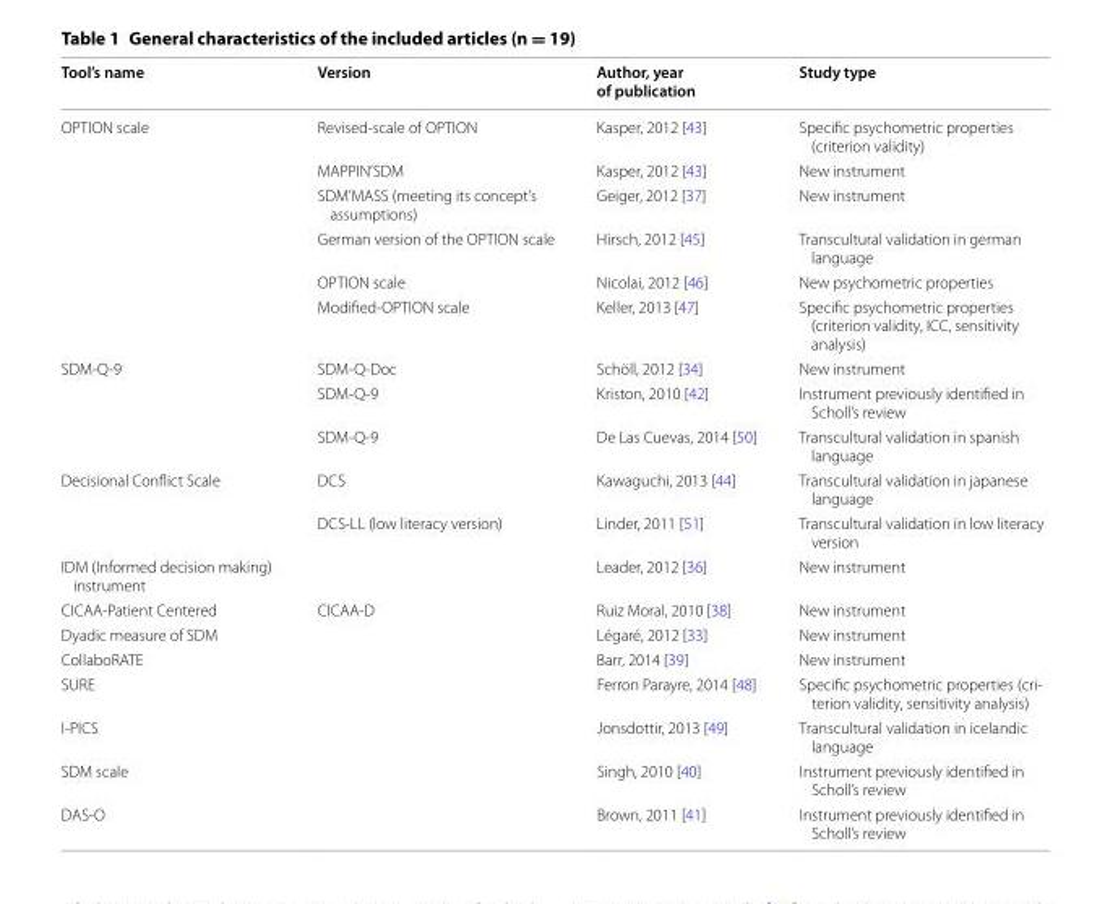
<table><thead><tr><td>Tool’s name</td><td>Version</td><td>Author, year of publication</td><td>Study type</td></tr></thead><tbody><tr><td rowspan="6">OPTION scale</td><td>Revised-scale of OPTION</td><td>Kasper, 2012 [43]</td><td>Specific psychometric properties (criterion validity)</td></tr><tr><td>MAPPIN’SDM</td><td>Kasper, 2012 [43]</td><td>New instrument</td></tr><tr><td>SDM’MASS (meeting its concept’s assumptions)</td><td>Geiger, 2012 [37]</td><td>New instrument</td></tr><tr><td>German version of the OPTION scale</td><td>Hirsch, 2012 [45]</td><td>Transcultural validation in german language</td></tr><tr><td>OPTION scale</td><td>Nicolai, 2012 [46]</td><td>New psychometric properties</td></tr><tr><td>Modified-OPTION scale</td><td>Keller, 2013 [47]</td><td>Specific psychometric properties (criterion validity, ICC, sensitivity analysis)</td></tr><tr><td rowspan="3">SDM-Q-9</td><td>SDM-Q-Doc</td><td>Schöll, 2012 [34]</td><td>New instrument</td></tr><tr><td>SDM-Q-9</td><td>Kriston, 2010 [42]</td><td>Instrument previously identified in Scholl’s review</td></tr><tr><td>SDM-Q-9</td><td>De Las Cuevas, 2014 [50]</td><td>Transcultural validation in spanish language</td></tr><tr><td rowspan="2">Decisional Conflict Scale</td><td>DCS</td><td>Kawaguchi, 2013 [44]</td><td>Transcultural validation in japanese language</td></tr><tr><td>DCS-LL (low literacy version)</td><td>Linder, 2011 [51]</td><td>Transcultural validation in low literacy version</td></tr><tr><td>IDM (Informed decision making) instrument</td><td></td><td>Leader, 2012 [36]</td><td>New instrument</td></tr><tr><td>CICAA-Patient Centered</td><td>CICAA-D</td><td>Ruiz Moral, 2010 [38]</td><td>New instrument</td></tr><tr><td>Dyadic measure of SDM</td><td></td><td>Légaré, 2012 [33]</td><td>New instrument</td></tr><tr><td>CollaboRATE</td><td></td><td>Barr, 2014 [39]</td><td>New instrument</td></tr><tr><td>SURE</td><td></td><td>Ferron Parayre, 2014 [48]</td><td>Specific psychometric properties (cri- terion validity, sensitivity analysis)</td></tr><tr><td>I-PICS</td><td></td><td>Jonsdottir, 2013 [49]</td><td>Transcultural validation in icelandic language</td></tr><tr><td>SDM scale</td><td></td><td>Singh, 2010 [40]</td><td>Instrument previously identified in Scholl’s review</td></tr><tr><td>DAS-O</td><td></td><td>Brown, 2011 [41]</td><td>Instrument previously identified in Scholl’s review</td></tr></tbody></table>